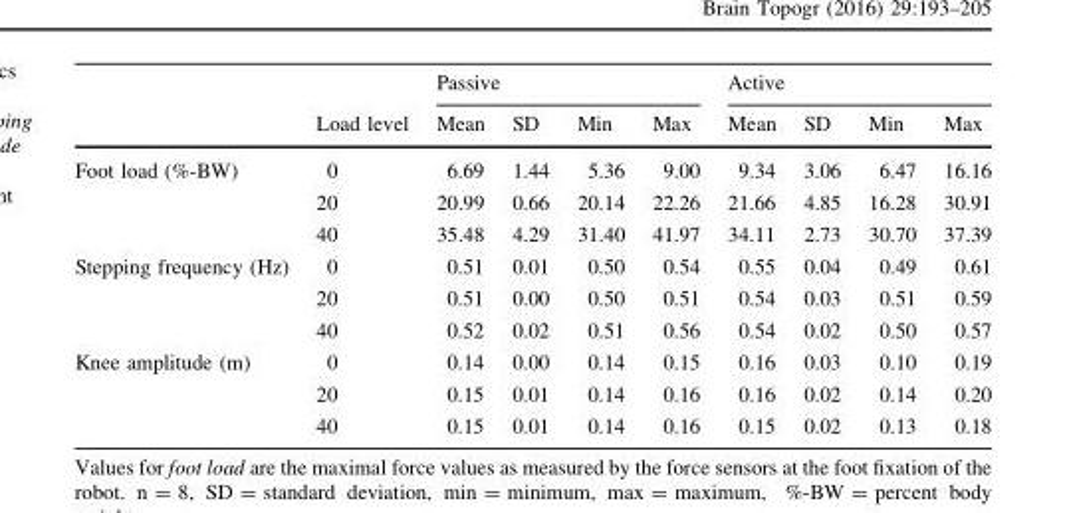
<table><thead><tr><td rowspan="2"></td><td rowspan="2">Load level</td><td colspan="4">Passive</td><td colspan="4">Active</td></tr><tr><td>Mean</td><td>SD</td><td>Min</td><td>Max</td><td>Mean</td><td>SD</td><td>Min</td><td>Max</td></tr></thead><tbody><tr><td rowspan="3">Foot load (%-BW)</td><td>0</td><td>6.69</td><td>1.44</td><td>5.36</td><td>9.00</td><td>9.34</td><td>3.06</td><td>6.47</td><td>16.16</td></tr><tr><td>20</td><td>20.99</td><td>0.66</td><td>20.14</td><td>22.26</td><td>21.66</td><td>4.85</td><td>16.28</td><td>30.91</td></tr><tr><td>40</td><td>35.48</td><td>4.29</td><td>31.40</td><td>41.97</td><td>34.11</td><td>2.73</td><td>30.70</td><td>37.39</td></tr><tr><td rowspan="3">Stepping frequency (Hz)</td><td>0</td><td>0.51</td><td>0.01</td><td>0.50</td><td>0.54</td><td>0.55</td><td>0.04</td><td>0.49</td><td>0.61</td></tr><tr><td>20</td><td>0.51</td><td>0.00</td><td>0.50</td><td>0.51</td><td>0.54</td><td>0.03</td><td>0.51</td><td>0.59</td></tr><tr><td>40</td><td>0.52</td><td>0.02</td><td>0.51</td><td>0.56</td><td>0.54</td><td>0.02</td><td>0.50</td><td>0.57</td></tr><tr><td rowspan="3">Knee amplitude (m)</td><td>0</td><td>0.14</td><td>0.00</td><td>0.14</td><td>0.15</td><td>0.16</td><td>0.03</td><td>0.10</td><td>0.19</td></tr><tr><td>20</td><td>0.15</td><td>0.01</td><td>0.14</td><td>0.16</td><td>0.16</td><td>0.02</td><td>0.14</td><td>0.20</td></tr><tr><td>40</td><td>0.15</td><td>0.01</td><td>0.14</td><td>0.16</td><td>0.15</td><td>0.02</td><td>0.13</td><td>0.18</td></tr></tbody></table>